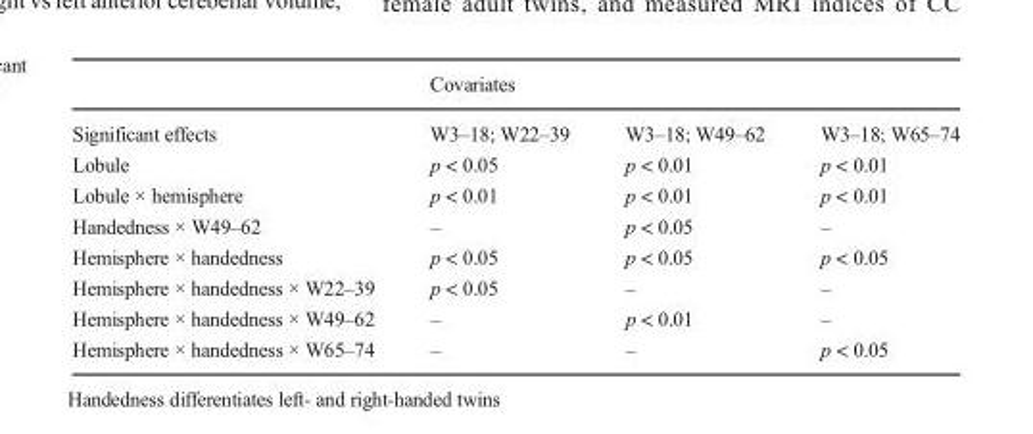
<table><thead><tr><td rowspan="2">Significant effects</td><td colspan="3">Covariates</td></tr><tr><td>W3–18; W22–39</td><td>W3–18; W49–62</td><td>W3–18; W65–74</td></tr></thead><tbody><tr><td>Lobule</td><td>p &lt; 0.05</td><td>p &lt; 0.01</td><td>p &lt; 0.01</td></tr><tr><td>Lobule × hemisphere</td><td>p &lt; 0.01</td><td>p &lt; 0.01</td><td>p &lt; 0.01</td></tr><tr><td>Handedness × W49–62</td><td>–</td><td>p &lt; 0.05</td><td>–</td></tr><tr><td>Hemisphere × handedness</td><td>p &lt; 0.05</td><td>p &lt; 0.05</td><td>p &lt; 0.05</td></tr><tr><td>Hemisphere × handedness × W22–39</td><td>p &lt; 0.05</td><td>–</td><td>–</td></tr><tr><td>Hemisphere × handedness × W49–62</td><td>–</td><td>p &lt; 0.01</td><td>–</td></tr><tr><td>Hemisphere × handedness × W65–74</td><td>–</td><td>–</td><td>p &lt; 0.05</td></tr></tbody></table>